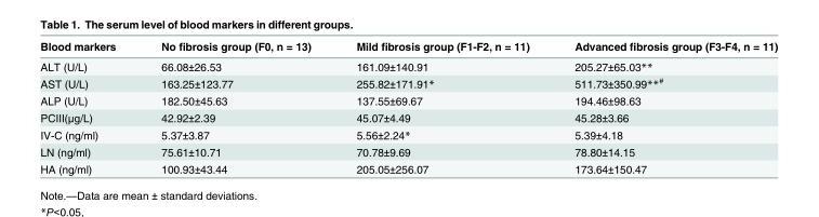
<table><thead><tr><td>Blood markers</td><td>No fibrosis group (F0, n = 13)</td><td>Mild fibrosis group (F1-F2, n = 11)</td><td>Advanced fibrosis group (F3-F4, n = 11)</td></tr></thead><tbody><tr><td>ALT (U/L)</td><td>66.08±26.53</td><td>161.09±140.91</td><td>205.27±65.03**</td></tr><tr><td>AST (U/L)</td><td>163.25±123.77</td><td>255.82±171.91*</td><td>511.73±350.99**<sup>#</sup></td></tr><tr><td>ALP (U/L)</td><td>182.50±45.63</td><td>137.55±69.67</td><td>194.46±98.63</td></tr><tr><td>PCIII(μg/L)</td><td>42.92±2.39</td><td>45.07±4.49</td><td>45.28±3.66</td></tr><tr><td>IV-C (ng/ml)</td><td>5.37±3.87</td><td>5.56±2.24*</td><td>5.39±4.18</td></tr><tr><td>LN (ng/ml)</td><td>75.61±10.71</td><td>70.78±9.69</td><td>78.80±14.15</td></tr><tr><td>HA (ng/ml)</td><td>100.93±43.44</td><td>205.05±256.07</td><td>173.64±150.47</td></tr></tbody></table>